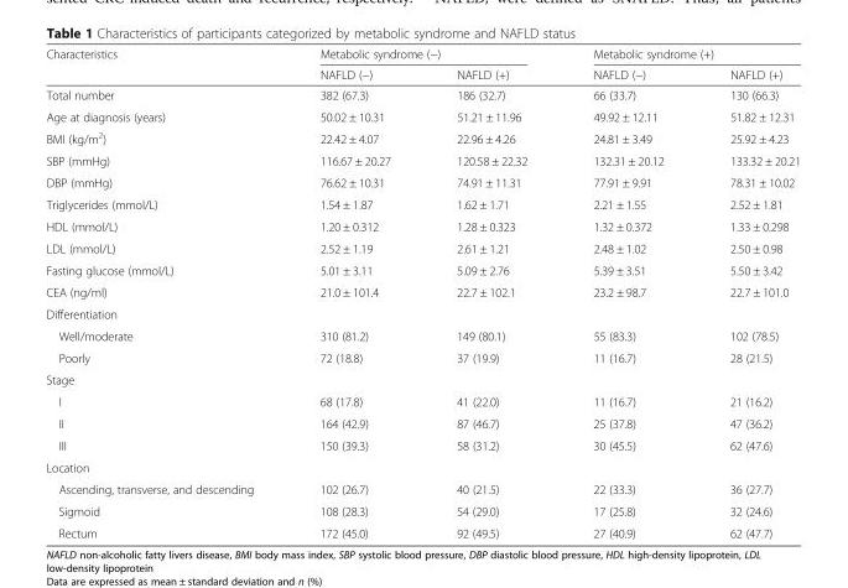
<table><thead><tr><td rowspan="2">Characteristics</td><td colspan="2">Metabolic syndrome (−)</td><td colspan="2">Metabolic syndrome (+)</td></tr><tr><td>NAFLD (−)</td><td>NAFLD (+)</td><td>NAFLD (−)</td><td>NAFLD (+)</td></tr></thead><tbody><tr><td>Total number</td><td>382 (67.3)</td><td>186 (32.7)</td><td>66 (33.7)</td><td>130 (66.3)</td></tr><tr><td>Age at diagnosis (years)</td><td>50.02 ± 10.31</td><td>51.21 ± 11.96</td><td>49.92 ± 12.11</td><td>51.82 ± 12.31</td></tr><tr><td>BMI (kg/m<sup>2</sup>)</td><td>22.42 ± 4.07</td><td>22.96 ± 4.26</td><td>24.81 ± 3.49</td><td>25.92 ± 4.23</td></tr><tr><td>SBP (mmHg)</td><td>116.67 ± 20.27</td><td>120.58 ± 22.32</td><td>132.31 ± 20.12</td><td>133.32 ± 20.21</td></tr><tr><td>DBP (mmHg)</td><td>76.62 ± 10.31</td><td>74.91 ± 11.31</td><td>77.91 ± 9.91</td><td>78.31 ± 10.02</td></tr><tr><td>Triglycerides (mmol/L)</td><td>1.54 ± 1.87</td><td>1.62 ± 1.71</td><td>2.21 ± 1.55</td><td>2.52 ± 1.81</td></tr><tr><td>HDL (mmol/L)</td><td>1.20 ± 0.312</td><td>1.28 ± 0.323</td><td>1.32 ± 0.372</td><td>1.33 ± 0.298</td></tr><tr><td>LDL (mmol/L)</td><td>2.52 ± 1.19</td><td>2.61 ± 1.21</td><td>2.48 ± 1.02</td><td>2.50 ± 0.98</td></tr><tr><td>Fasting glucose (mmol/L)</td><td>5.01 ± 3.11</td><td>5.09 ± 2.76</td><td>5.39 ± 3.51</td><td>5.50 ± 3.42</td></tr><tr><td>CEA (ng/ml)</td><td>21.0 ± 101.4</td><td>22.7 ± 102.1</td><td>23.2 ± 98.7</td><td>22.7 ± 101.0</td></tr><tr><td colspan="5">Differentiation</td></tr><tr><td>Well/moderate</td><td>310 (81.2)</td><td>149 (80.1)</td><td>55 (83.3)</td><td>102 (78.5)</td></tr><tr><td>Poorly</td><td>72 (18.8)</td><td>37 (19.9)</td><td>11 (16.7)</td><td>28 (21.5)</td></tr><tr><td colspan="5">Stage</td></tr><tr><td>I</td><td>68 (17.8)</td><td>41 (22.0)</td><td>11 (16.7)</td><td>21 (16.2)</td></tr><tr><td>II</td><td>164 (42.9)</td><td>87 (46.7)</td><td>25 (37.8)</td><td>47 (36.2)</td></tr><tr><td>III</td><td>150 (39.3)</td><td>58 (31.2)</td><td>30 (45.5)</td><td>62 (47.6)</td></tr><tr><td colspan="5">Location</td></tr><tr><td>Ascending, transverse, and descending</td><td>102 (26.7)</td><td>40 (21.5)</td><td>22 (33.3)</td><td>36 (27.7)</td></tr><tr><td>Sigmoid</td><td>108 (28.3)</td><td>54 (29.0)</td><td>17 (25.8)</td><td>32 (24.6)</td></tr><tr><td>Rectum</td><td>172 (45.0)</td><td>92 (49.5)</td><td>27 (40.9)</td><td>62 (47.7)</td></tr></tbody></table>